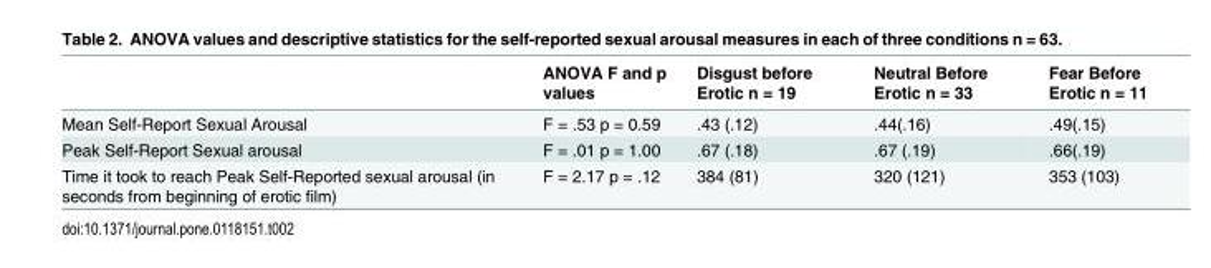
<table><thead><tr><td></td><td>ANOVA F and p values</td><td>Disgust before Erotic n = 19</td><td>Neutral Before Erotic n = 33</td><td>Fear Before Erotic n = 11</td></tr></thead><tbody><tr><td>Mean Self-Report Sexual Arousal</td><td>F = .53 p = 0.59</td><td>.43 (.12)</td><td>.44(.16)</td><td>.49(.15)</td></tr><tr><td>Peak Self-Report Sexual arousal</td><td>F = .01 p = 1.00</td><td>.67 (.18)</td><td>.67 (.19)</td><td>.66(.19)</td></tr><tr><td>Time it took to reach Peak Self-Reported sexual arousal (in seconds from beginning of erotic film)</td><td>F = 2.17 p = .12</td><td>384 (81)</td><td>320 (121)</td><td>353 (103)</td></tr></tbody></table>